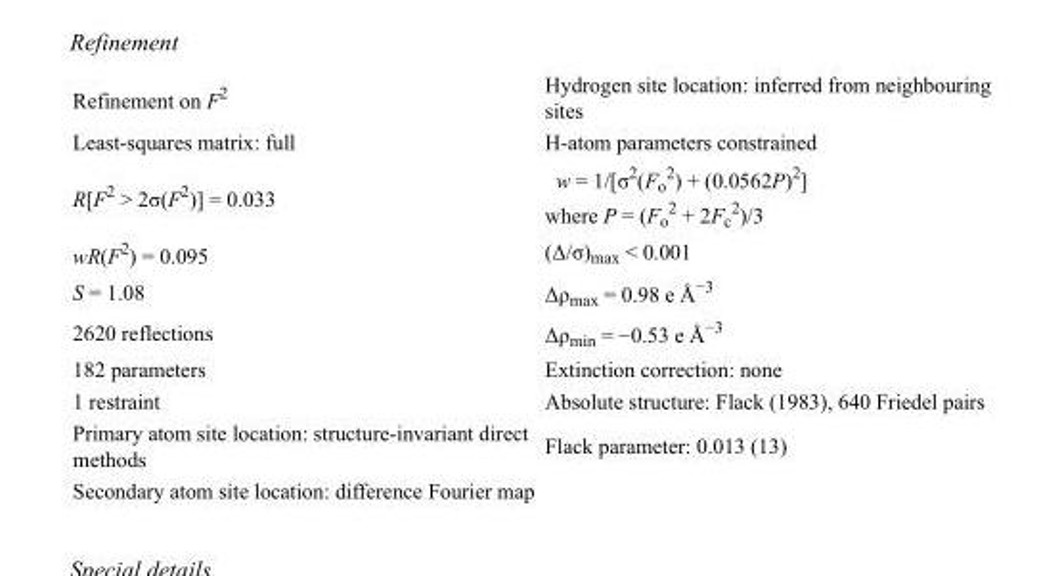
<table><tbody><tr><td>Refinement on F<sup>2</sup></td><td>Hydrogen site location: inferred from neighbouring sites</td></tr><tr><td>Least-squares matrix: full</td><td>H-atom parameters constrained</td></tr><tr><td>R[F<sup>2</sup> &gt; 2σ(F<sup>2</sup>)] = 0.033</td><td>w = 1/[σ<sup>2</sup>(F<sub>o</sub> <sup>2</sup>) + (0.0562P)<sup>2</sup>] where P = (F<sub>o</sub> <sup>2</sup> + 2F<sub>c</sub> <sup>2</sup>)/3</td></tr><tr><td>wR(F<sup>2</sup>) = 0.095</td><td>(Δ/σ)<sub>max</sub> &lt; 0.001</td></tr><tr><td>S = 1.08</td><td>Δρ<sub>max</sub> = 0.98 e Å<sup>−3</sup></td></tr><tr><td>2620 reflections</td><td>Δρ<sub>min</sub> = −0.53 e Å<sup>−3</sup></td></tr><tr><td>182 parameters</td><td>Extinction correction: none</td></tr><tr><td>1 restraint</td><td>Absolute structure: Flack (1983), 640 Friedel pairs</td></tr><tr><td>Primary atom site location: structure-invariant direct methods</td><td>Flack parameter: 0.013 (13)</td></tr><tr><td>Secondary atom site location: difference Fourier map</td><td></td></tr></tbody></table>